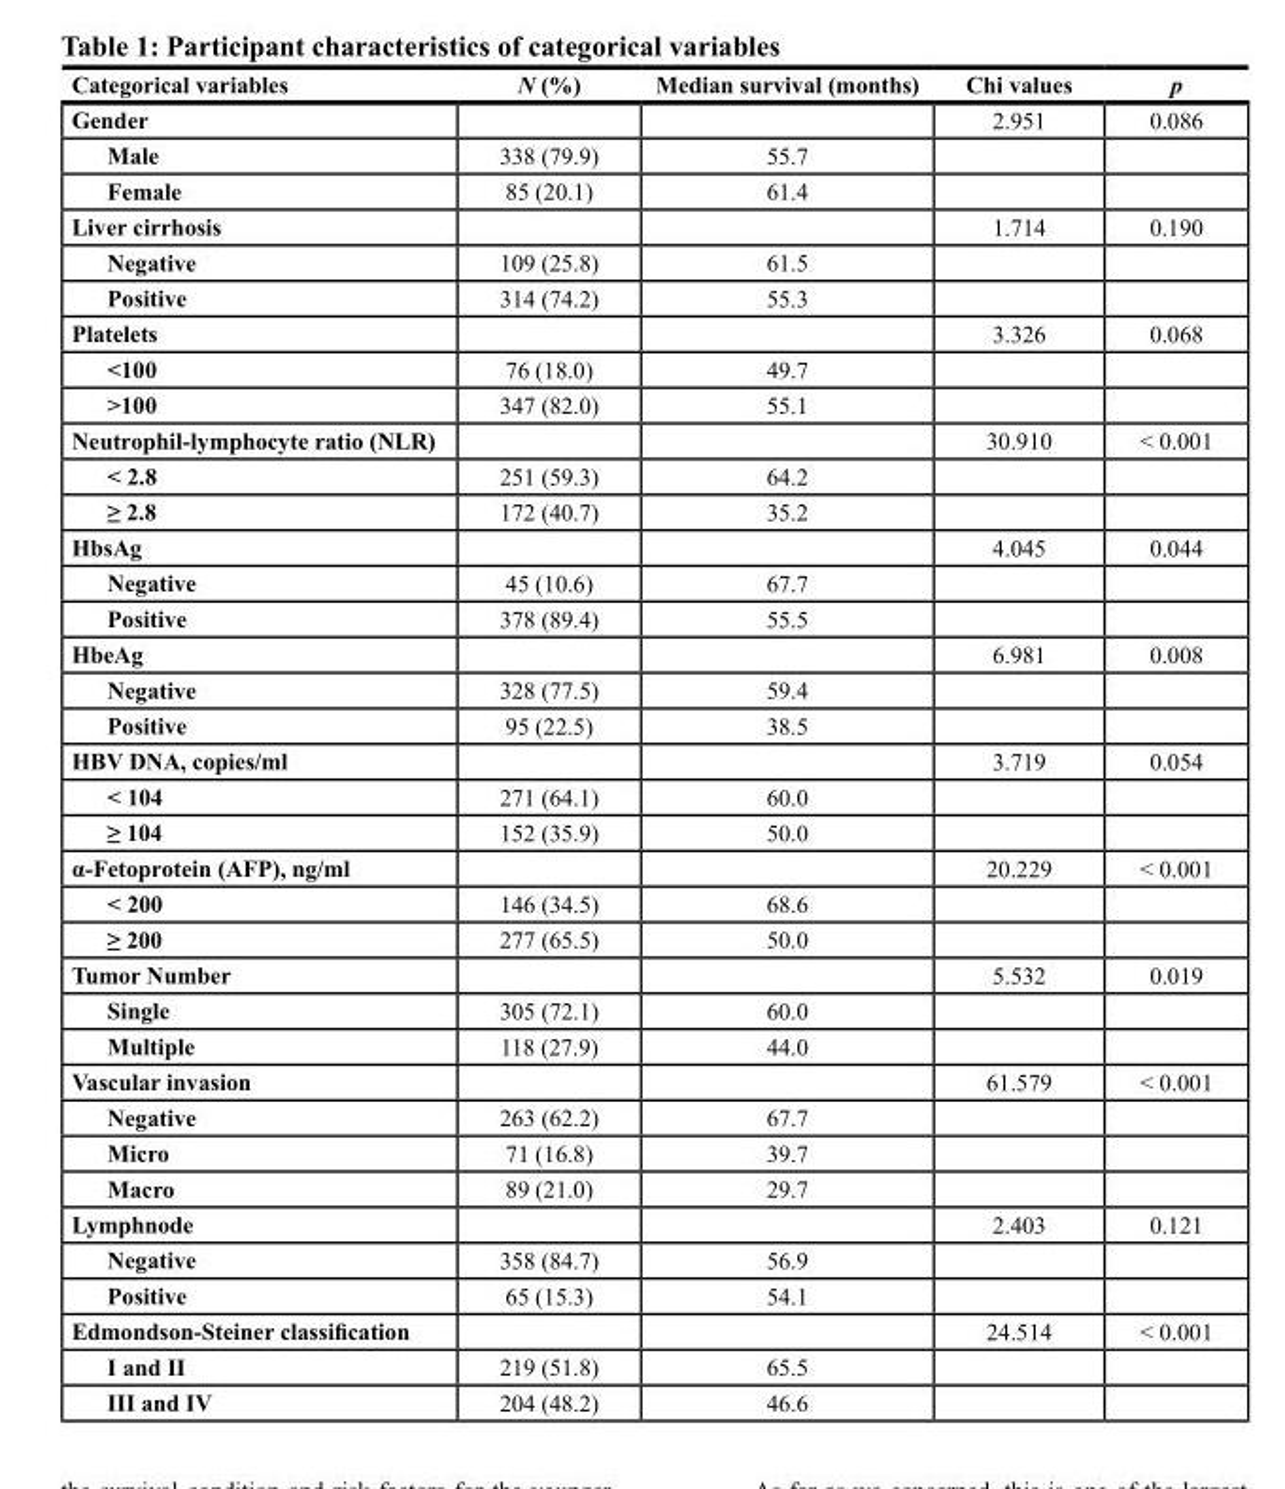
<table><thead><tr><td>Categorical variables</td><td>N (%)</td><td>Median survival (months)</td><td>Chi values</td><td>p</td></tr></thead><tbody><tr><td>Gender</td><td></td><td></td><td>2.951</td><td>0.086</td></tr><tr><td>Male</td><td>338 (79.9)</td><td>55.7</td><td></td><td></td></tr><tr><td>Female</td><td>85 (20.1)</td><td>61.4</td><td></td><td></td></tr><tr><td>Liver cirrhosis</td><td></td><td></td><td>1.714</td><td>0.190</td></tr><tr><td>Negative</td><td>109 (25.8)</td><td>61.5</td><td></td><td></td></tr><tr><td>Positive</td><td>314 (74.2)</td><td>55.3</td><td></td><td></td></tr><tr><td>Platelets</td><td></td><td></td><td>3.326</td><td>0.068</td></tr><tr><td>&lt;100</td><td>76 (18.0)</td><td>49.7</td><td></td><td></td></tr><tr><td>&gt;100</td><td>347 (82.0)</td><td>55.1</td><td></td><td></td></tr><tr><td>Neutrophil-lymphocyte ratio (NLR)</td><td></td><td></td><td>30.910</td><td>&lt; 0.001</td></tr><tr><td>&lt; 2.8</td><td>251 (59.3)</td><td>64.2</td><td></td><td></td></tr><tr><td>≥ 2.8</td><td>172 (40.7)</td><td>35.2</td><td></td><td></td></tr><tr><td>HbsAg</td><td></td><td></td><td>4.045</td><td>0.044</td></tr><tr><td>Negative</td><td>45 (10.6)</td><td>67.7</td><td></td><td></td></tr><tr><td>Positive</td><td>378 (89.4)</td><td>55.5</td><td></td><td></td></tr><tr><td>HbeAg</td><td></td><td></td><td>6.981</td><td>0.008</td></tr><tr><td>Negative</td><td>328 (77.5)</td><td>59.4</td><td></td><td></td></tr><tr><td>Positive</td><td>95 (22.5)</td><td>38.5</td><td></td><td></td></tr><tr><td>HBV DNA, copies/ml</td><td></td><td></td><td>3.719</td><td>0.054</td></tr><tr><td>&lt; 104</td><td>271 (64.1)</td><td>60.0</td><td></td><td></td></tr><tr><td>≥ 104</td><td>152 (35.9)</td><td>50.0</td><td></td><td></td></tr><tr><td>α-Fetoprotein (AFP), ng/ml</td><td></td><td></td><td>20.229</td><td>&lt; 0.001</td></tr><tr><td>&lt; 200</td><td>146 (34.5)</td><td>68.6</td><td></td><td></td></tr><tr><td>≥ 200</td><td>277 (65.5)</td><td>50.0</td><td></td><td></td></tr><tr><td>Tumor Number</td><td></td><td></td><td>5.532</td><td>0.019</td></tr><tr><td>Single</td><td>305 (72.1)</td><td>60.0</td><td></td><td></td></tr><tr><td>Multiple</td><td>118 (27.9)</td><td>44.0</td><td></td><td></td></tr><tr><td>Vascular invasion</td><td></td><td></td><td>61.579</td><td>&lt; 0.001</td></tr><tr><td>Negative</td><td>263 (62.2)</td><td>67.7</td><td></td><td></td></tr><tr><td>Micro</td><td>71 (16.8)</td><td>39.7</td><td></td><td></td></tr><tr><td>Macro</td><td>89 (21.0)</td><td>29.7</td><td></td><td></td></tr><tr><td>Lymphnode</td><td></td><td></td><td>2.403</td><td>0.121</td></tr><tr><td>Negative</td><td>358 (84.7)</td><td>56.9</td><td></td><td></td></tr><tr><td>Positive</td><td>65 (15.3)</td><td>54.1</td><td></td><td></td></tr><tr><td>Edmondson-Steiner classification</td><td></td><td></td><td>24.514</td><td>&lt; 0.001</td></tr><tr><td>I and II</td><td>219 (51.8)</td><td>65.5</td><td></td><td></td></tr><tr><td>III and IV</td><td>204 (48.2)</td><td>46.6</td><td></td><td></td></tr></tbody></table>